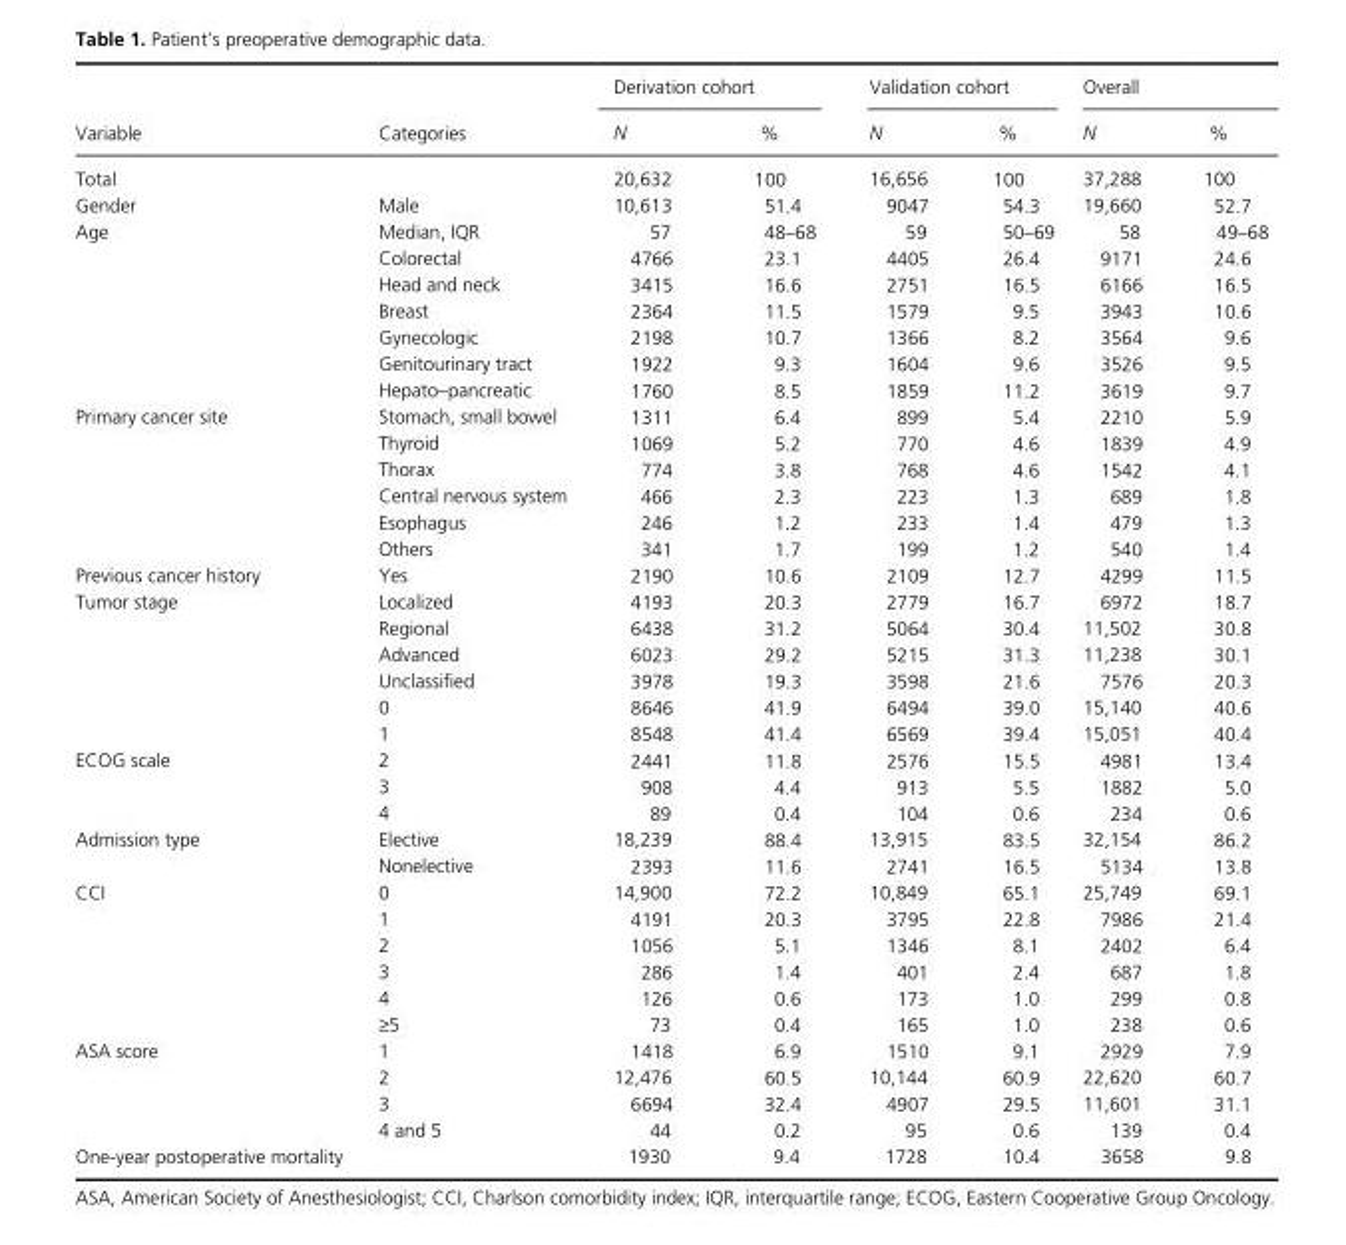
<table><thead><tr><td rowspan="2">Variable</td><td rowspan="2">Categories</td><td colspan="2">Derivation cohort</td><td colspan="2">Validation cohort</td><td colspan="2">Overall</td></tr><tr><td>N</td><td>%</td><td>N</td><td>%</td><td>N</td><td>%</td></tr></thead><tbody><tr><td>Total</td><td></td><td>20,632</td><td>100</td><td>16,656</td><td>100</td><td>37,288</td><td>100</td></tr><tr><td>Gender</td><td>Male</td><td>10,613</td><td>51.4</td><td>9047</td><td>54.3</td><td>19,660</td><td>52.7</td></tr><tr><td rowspan="7">Age</td><td>Median, IQR</td><td>57</td><td>48–68</td><td>59</td><td>50–69</td><td>58</td><td>49–68</td></tr><tr><td>Colorectal</td><td>4766</td><td>23.1</td><td>4405</td><td>26.4</td><td>9171</td><td>24.6</td></tr><tr><td>Head and neck</td><td>3415</td><td>16.6</td><td>2751</td><td>16.5</td><td>6166</td><td>16.5</td></tr><tr><td>Breast</td><td>2364</td><td>11.5</td><td>1579</td><td>9.5</td><td>3943</td><td>10.6</td></tr><tr><td>Gynecologic</td><td>2198</td><td>10.7</td><td>1366</td><td>8.2</td><td>3564</td><td>9.6</td></tr><tr><td>Genitourinary tract</td><td>1922</td><td>9.3</td><td>1604</td><td>9.6</td><td>3526</td><td>9.5</td></tr><tr><td>Hepato–pancreatic</td><td>1760</td><td>8.5</td><td>1859</td><td>11.2</td><td>3619</td><td>9.7</td></tr><tr><td rowspan="6">Primary cancer site</td><td>Stomach, small bowel</td><td>1311</td><td>6.4</td><td>899</td><td>5.4</td><td>2210</td><td>5.9</td></tr><tr><td>Thyroid</td><td>1069</td><td>5.2</td><td>770</td><td>4.6</td><td>1839</td><td>4.9</td></tr><tr><td>Thorax</td><td>774</td><td>3.8</td><td>768</td><td>4.6</td><td>1542</td><td>4.1</td></tr><tr><td>Central nervous system</td><td>466</td><td>2.3</td><td>223</td><td>1.3</td><td>689</td><td>1.8</td></tr><tr><td>Esophagus</td><td>246</td><td>1.2</td><td>233</td><td>1.4</td><td>479</td><td>1.3</td></tr><tr><td>Others</td><td>341</td><td>1.7</td><td>199</td><td>1.2</td><td>540</td><td>1.4</td></tr><tr><td>Previous cancer history</td><td>Yes</td><td>2190</td><td>10.6</td><td>2109</td><td>12.7</td><td>4299</td><td>11.5</td></tr><tr><td rowspan="6">Tumor stage</td><td>Localized</td><td>4193</td><td>20.3</td><td>2779</td><td>16.7</td><td>6972</td><td>18.7</td></tr><tr><td>Regional</td><td>6438</td><td>31.2</td><td>5064</td><td>30.4</td><td>11,502</td><td>30.8</td></tr><tr><td>Advanced</td><td>6023</td><td>29.2</td><td>5215</td><td>31.3</td><td>11,238</td><td>30.1</td></tr><tr><td>Unclassified</td><td>3978</td><td>19.3</td><td>3598</td><td>21.6</td><td>7576</td><td>20.3</td></tr><tr><td>0</td><td>8646</td><td>41.9</td><td>6494</td><td>39.0</td><td>15,140</td><td>40.6</td></tr><tr><td>1</td><td>8548</td><td>41.4</td><td>6569</td><td>39.4</td><td>15,051</td><td>40.4</td></tr><tr><td rowspan="3">ECOG scale</td><td>2</td><td>2441</td><td>11.8</td><td>2576</td><td>15.5</td><td>4981</td><td>13.4</td></tr><tr><td>3</td><td>908</td><td>4.4</td><td>913</td><td>5.5</td><td>1882</td><td>5.0</td></tr><tr><td>4</td><td>89</td><td>0.4</td><td>104</td><td>0.6</td><td>234</td><td>0.6</td></tr><tr><td rowspan="2">Admission type</td><td>Elective</td><td>18,239</td><td>88.4</td><td>13,915</td><td>83.5</td><td>32,154</td><td>86.2</td></tr><tr><td>Nonelective</td><td>2393</td><td>11.6</td><td>2741</td><td>16.5</td><td>5134</td><td>13.8</td></tr><tr><td rowspan="6">CCI</td><td>0</td><td>14,900</td><td>72.2</td><td>10,849</td><td>65.1</td><td>25,749</td><td>69.1</td></tr><tr><td>1</td><td>4191</td><td>20.3</td><td>3795</td><td>22.8</td><td>7986</td><td>21.4</td></tr><tr><td>2</td><td>1056</td><td>5.1</td><td>1346</td><td>8.1</td><td>2402</td><td>6.4</td></tr><tr><td>3</td><td>286</td><td>1.4</td><td>401</td><td>2.4</td><td>687</td><td>1.8</td></tr><tr><td>4</td><td>126</td><td>0.6</td><td>173</td><td>1.0</td><td>299</td><td>0.8</td></tr><tr><td>≥5</td><td>73</td><td>0.4</td><td>165</td><td>1.0</td><td>238</td><td>0.6</td></tr><tr><td rowspan="4">ASA score</td><td>1</td><td>1418</td><td>6.9</td><td>1510</td><td>9.1</td><td>2929</td><td>7.9</td></tr><tr><td>2</td><td>12,476</td><td>60.5</td><td>10,144</td><td>60.9</td><td>22,620</td><td>60.7</td></tr><tr><td>3</td><td>6694</td><td>32.4</td><td>4907</td><td>29.5</td><td>11,601</td><td>31.1</td></tr><tr><td>4 and 5</td><td>44</td><td>0.2</td><td>95</td><td>0.6</td><td>139</td><td>0.4</td></tr><tr><td>One- year postoperative mortality</td><td></td><td>1930</td><td>9.4</td><td>1728</td><td>10.4</td><td>3658</td><td>9.8</td></tr></tbody></table>